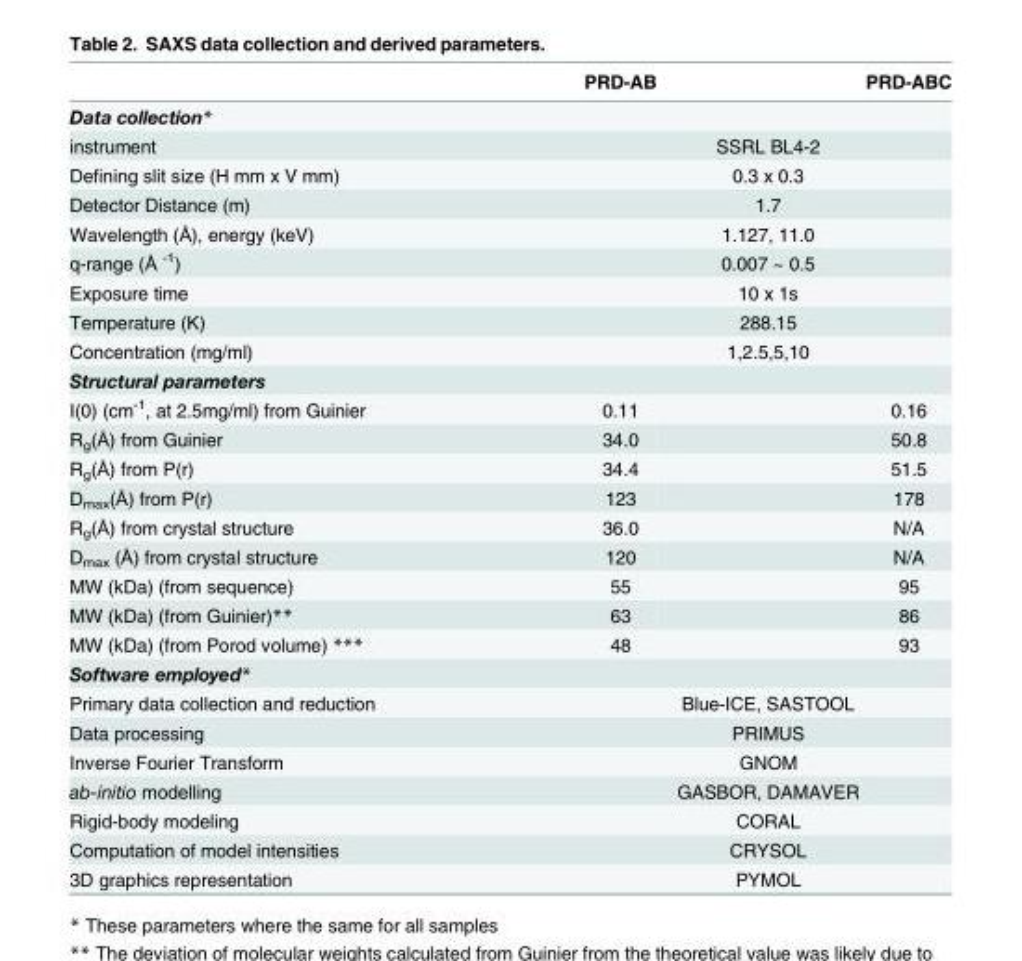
<table><thead><tr><td></td><td>PRD-AB</td><td>PRD-ABC</td></tr></thead><tbody><tr><td colspan="3">Data collection*</td></tr><tr><td>instrument</td><td colspan="2">SSRL BL4-2</td></tr><tr><td>Defining slit size (H mm x V mm)</td><td colspan="2">0.3 x 0.3</td></tr><tr><td>Detector Distance (m)</td><td colspan="2">1.7</td></tr><tr><td>Wavelength (Å), energy (keV)</td><td colspan="2">1.127, 11.0</td></tr><tr><td>q-range (Å <sup>-1</sup>)</td><td colspan="2">0.007 ~ 0.5</td></tr><tr><td>Exposure time</td><td colspan="2">10 x 1s</td></tr><tr><td>Temperature (K)</td><td colspan="2">288.15</td></tr><tr><td>Concentration (mg/ml)</td><td colspan="2">1,2.5,5,10</td></tr><tr><td colspan="3">Structural parameters</td></tr><tr><td>I(0) (cm<sup>-1</sup>, at 2.5mg/ml) from Guinier</td><td>0.11</td><td>0.16</td></tr><tr><td>R<sub>g</sub>(Å) from Guinier</td><td>34.0</td><td>50.8</td></tr><tr><td>R<sub>g</sub>(Å) from P(r)</td><td>34.4</td><td>51.5</td></tr><tr><td>D<sub>max</sub>(Å) from P(r)</td><td>123</td><td>178</td></tr><tr><td>R<sub>g</sub>(Å) from crystal structure</td><td>36.0</td><td>N/A</td></tr><tr><td>D<sub>max</sub> (Å) from crystal structure</td><td>120</td><td>N/A</td></tr><tr><td>MW (kDa) (from sequence)</td><td>55</td><td>95</td></tr><tr><td>MW (kDa) (from Guinier)**</td><td>63</td><td>86</td></tr><tr><td>MW (kDa) (from Porod volume) ***</td><td>48</td><td>93</td></tr><tr><td colspan="3">Software employed*</td></tr><tr><td>Primary data collection and reduction</td><td colspan="2">Blue-ICE, SASTOOL</td></tr><tr><td>Data processing</td><td colspan="2">PRIMUS</td></tr><tr><td>Inverse Fourier Transform</td><td colspan="2">GNOM</td></tr><tr><td>ab-initio modelling</td><td colspan="2">GASBOR, DAMAVER</td></tr><tr><td>Rigid-body modeling</td><td colspan="2">CORAL</td></tr><tr><td>Computation of model intensities</td><td colspan="2">CRYSOL</td></tr><tr><td>3D graphics representation</td><td colspan="2">PYMOL</td></tr></tbody></table>